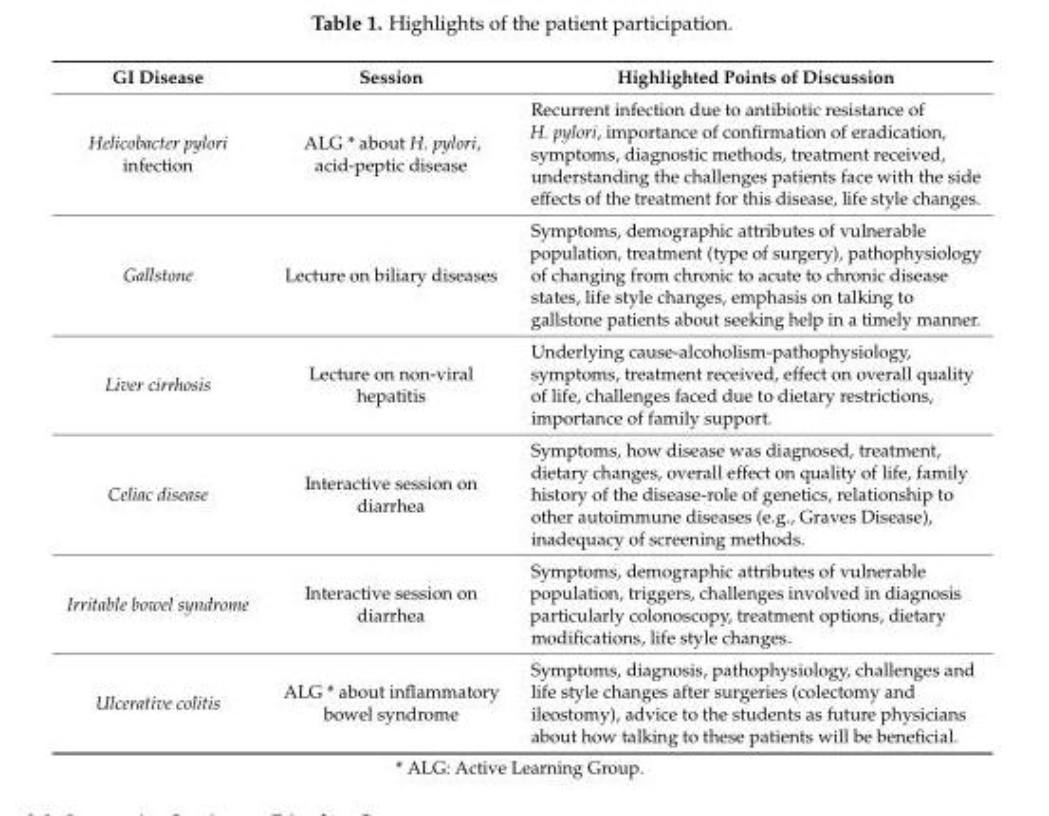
<table><thead><tr><td>GI Disease</td><td>Session</td><td>Highlighted Points of Discussion</td></tr></thead><tbody><tr><td>Helicobacter pylori infection</td><td>ALG * about H. pylori, acid-peptic disease</td><td>Recurrent infection due to antibiotic resistance of H. pylori, importance of confirmation of eradication, symptoms, diagnostic methods, treatment received, understanding the challenges patients face with the side effects of the treatment for this disease, life style changes.</td></tr><tr><td>Gallstone</td><td>Lecture on biliary diseases</td><td>Symptoms, demographic attributes of vulnerable population, treatment (type of surgery), pathophysiology of changing from chronic to acute to chronic disease states, life style changes, emphasis on talking to gallstone patients about seeking help in a timely manner.</td></tr><tr><td>Liver cirrhosis</td><td>Lecture on non-viral hepatitis</td><td>Underlying cause-alcoholism-pathophysiology, symptoms, treatment received, effect on overall quality of life, challenges faced due to dietary restrictions, importance of family support.</td></tr><tr><td>Celiac disease</td><td>Interactive session on diarrhea</td><td>Symptoms, how disease was diagnosed, treatment, dietary changes, overall effect on quality of life, family history of the disease-role of genetics, relationship to other autoimmune diseases (e.g., Graves Disease), inadequacy of screening methods.</td></tr><tr><td>Irritable bowel syndrome</td><td>Interactive session on diarrhea</td><td>Symptoms, demographic attributes of vulnerable population, triggers, challenges involved in diagnosis particularly colonoscopy, treatment options, dietary modifications, life style changes.</td></tr><tr><td>Ulcerative colitis</td><td>ALG * about inflammatory bowel syndrome</td><td>Symptoms, diagnosis, pathophysiology, challenges and life style changes after surgeries (colectomy and ileostomy), advice to the students as future physicians about how talking to these patients will be beneficial.</td></tr></tbody></table>